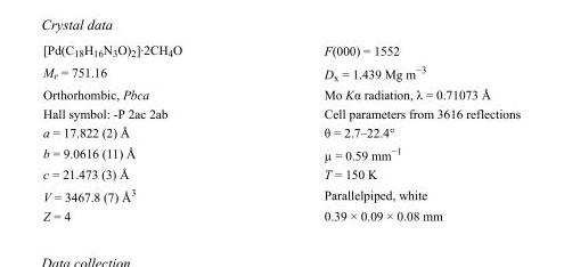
<table><tbody><tr><td>[Pd(C<sub>18</sub>H<sub>16</sub>N<sub>3</sub>O)<sub>2</sub>]·2CH<sub>4</sub>O</td><td>F(000) = 1552</td></tr><tr><td>M<sub>r</sub> = 751.16</td><td>D<sub>x</sub> = 1.439 Mg m<sup>−3</sup></td></tr><tr><td>Orthorhombic, Pbca</td><td>Mo Kα radiation, λ = 0.71073 Å</td></tr><tr><td>Hall symbol: -P 2ac 2ab</td><td>Cell parameters from 3616 reflections</td></tr><tr><td>a = 17.822 (2) Å</td><td>θ = 2.7–22.4°</td></tr><tr><td>b = 9.0616 (11) Å</td><td>µ = 0.59 mm<sup>−1</sup></td></tr><tr><td>c = 21.473 (3) Å</td><td>T = 150 K</td></tr><tr><td>V = 3467.8 (7) Å<sup>3</sup></td><td>Parallelpiped, white</td></tr><tr><td>Z = 4</td><td>0.39 × 0.09 × 0.08 mm</td></tr></tbody></table>